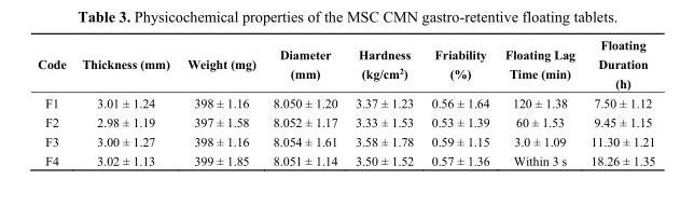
<table><thead><tr><td>Code</td><td>Thickness (mm)</td><td>Weight (mg)</td><td>Diameter (mm)</td><td>Hardness (kg/cm<sup>2</sup>)</td><td>Friability (%)</td><td>Floating Lag Time (min)</td><td>Floating Duration (h)</td></tr></thead><tbody><tr><td>F1</td><td>3.01 ± 1.24</td><td>398 ± 1.16</td><td>8.050 ± 1.20</td><td>3.37 ± 1.23</td><td>0.56 ± 1.64</td><td>120 ± 1.38</td><td>7.50 ± 1.12</td></tr><tr><td>F2</td><td>2.98 ± 1.19</td><td>397 ± 1.58</td><td>8.052 ± 1.17</td><td>3.33 ± 1.53</td><td>0.53 ± 1.39</td><td>60 ± 1.53</td><td>9.45 ± 1.15</td></tr><tr><td>F3</td><td>3.00 ± 1.27</td><td>398 ± 1.16</td><td>8.054 ± 1.61</td><td>3.58 ± 1.78</td><td>0.59 ± 1.15</td><td>3.0 ± 1.09</td><td>11.30 ± 1.21</td></tr><tr><td>F4</td><td>3.02 ± 1.13</td><td>399 ± 1.85</td><td>8.051 ± 1.14</td><td>3.50 ± 1.52</td><td>0.57 ± 1.36</td><td>Within 3 s</td><td>18.26 ± 1.35</td></tr></tbody></table>